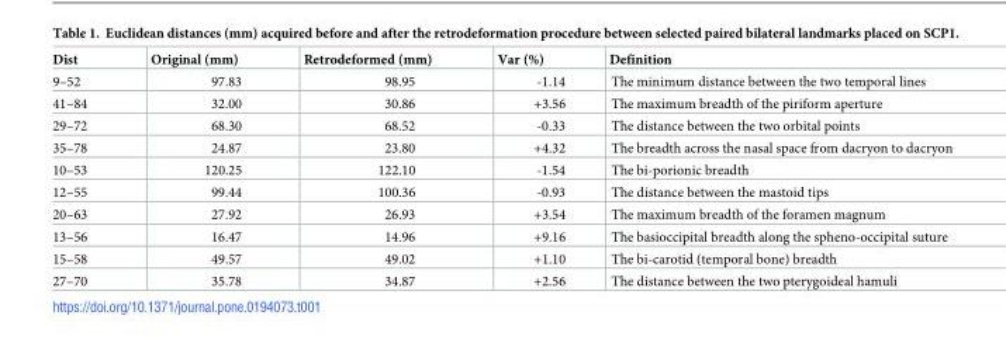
<table><thead><tr><td>Dist</td><td>Original (mm)</td><td>Retrodeformed (mm)</td><td>Var (%)</td><td>Definition</td></tr></thead><tbody><tr><td>9–52</td><td>97.83</td><td>98.95</td><td>-1.14</td><td>The minimum distance between the two temporal lines</td></tr><tr><td>41–84</td><td>32.00</td><td>30.86</td><td>+3.56</td><td>The maximum breadth of the piriform aperture</td></tr><tr><td>29–72</td><td>68.30</td><td>68.52</td><td>-0.33</td><td>The distance between the two orbital points</td></tr><tr><td>35–78</td><td>24.87</td><td>23.80</td><td>+4.32</td><td>The breadth across the nasal space from dacryon to dacryon</td></tr><tr><td>10–53</td><td>120.25</td><td>122.10</td><td>-1.54</td><td>The bi-porionic breadth</td></tr><tr><td>12–55</td><td>99.44</td><td>100.36</td><td>-0.93</td><td>The distance between the mastoid tips</td></tr><tr><td>20–63</td><td>27.92</td><td>26.93</td><td>+3.54</td><td>The maximum breadth of the foramen magnum</td></tr><tr><td>13–56</td><td>16.47</td><td>14.96</td><td>+9.16</td><td>The basioccipital breadth along the spheno-occipital suture</td></tr><tr><td>15–58</td><td>49.57</td><td>49.02</td><td>+1.10</td><td>The bi-carotid (temporal bone) breadth</td></tr><tr><td>27–70</td><td>35.78</td><td>34.87</td><td>+2.56</td><td>The distance between the two pterygoideal hamuli</td></tr></tbody></table>